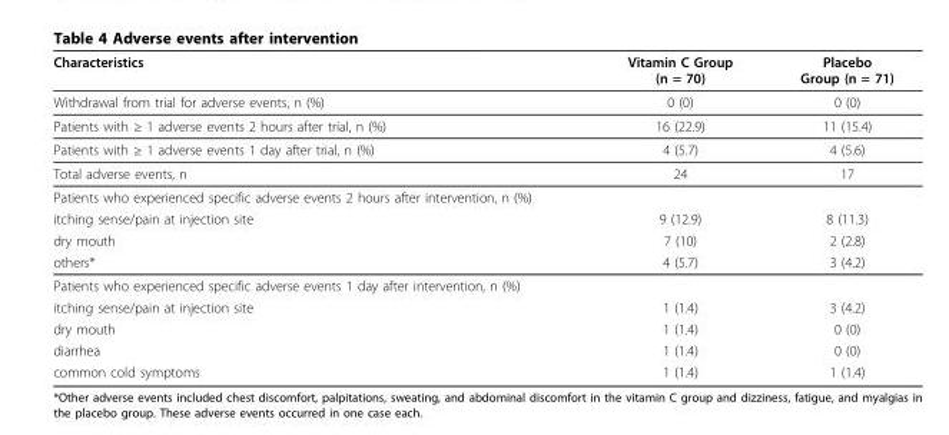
<table><thead><tr><td>Characteristics</td><td>Vitamin C Group (n = 70)</td><td>Placebo Group (n = 71)</td></tr></thead><tbody><tr><td>Withdrawal from trial for adverse events, n (%)</td><td>0 (0)</td><td>0 (0)</td></tr><tr><td>Patients with ≥ 1 adverse events 2 hours after trial, n (%)</td><td>16 (22.9)</td><td>11 (15.4)</td></tr><tr><td>Patients with ≥ 1 adverse events 1 day after trial, n (%)</td><td>4 (5.7)</td><td>4 (5.6)</td></tr><tr><td>Total adverse events, n</td><td>24</td><td>17</td></tr><tr><td colspan="3">Patients who experienced specific adverse events 2 hours after intervention, n (%)</td></tr><tr><td>itching sense/pain at injection site</td><td>9 (12.9)</td><td>8 (11.3)</td></tr><tr><td>dry mouth</td><td>7 (10)</td><td>2 (2.8)</td></tr><tr><td>others*</td><td>4 (5.7)</td><td>3 (4.2)</td></tr><tr><td colspan="3">Patients who experienced specific adverse events 1 day after intervention, n (%)</td></tr><tr><td>itching sense/pain at injection site</td><td>1 (1.4)</td><td>3 (4.2)</td></tr><tr><td>dry mouth</td><td>1 (1.4)</td><td>0 (0)</td></tr><tr><td>diarrhea</td><td>1 (1.4)</td><td>0 (0)</td></tr><tr><td>common cold symptoms</td><td>1 (1.4)</td><td>1 (1.4)</td></tr></tbody></table>